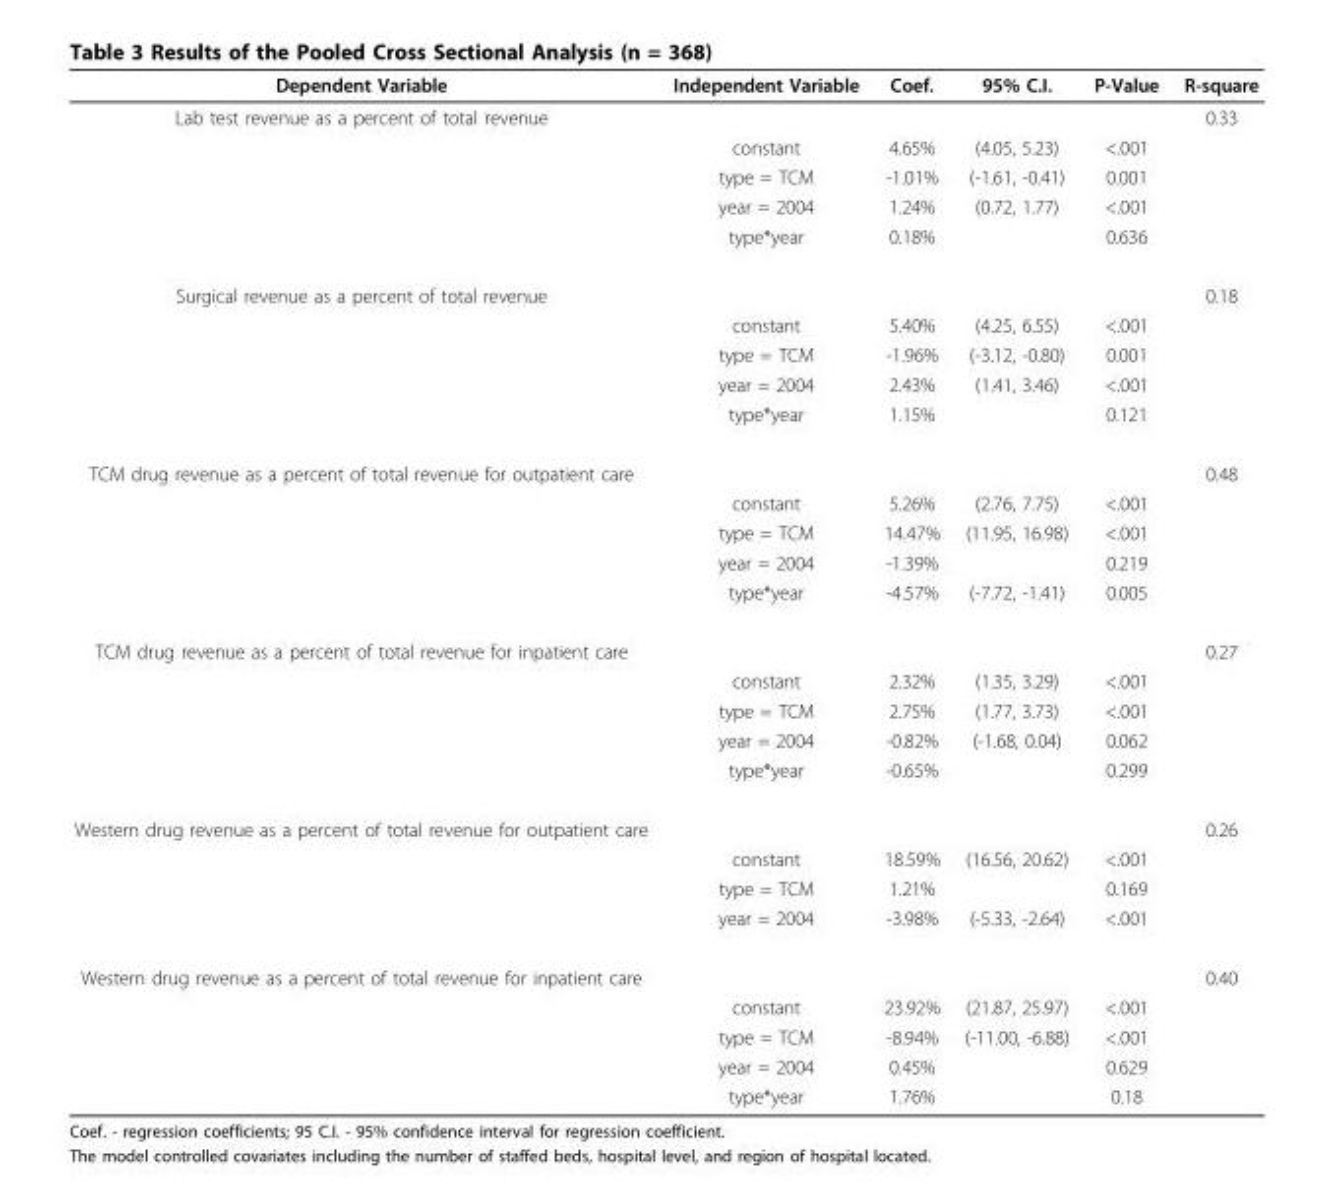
<table><thead><tr><td>Dependent Variable</td><td>Independent Variable</td><td>Coef.</td><td>95% C.I.</td><td>P-Value</td><td>R-square</td></tr></thead><tbody><tr><td rowspan="5">Lab test revenue as a percent of total revenue</td><td></td><td></td><td></td><td></td><td>0.33</td></tr><tr><td>constant</td><td>4.65%</td><td>(4.05, 5.23)</td><td>&lt;.001</td><td></td></tr><tr><td>type = TCM</td><td>-1.01%</td><td>(-1.61, -0.41)</td><td>0.001</td><td></td></tr><tr><td>year = 2004</td><td>1.24%</td><td>(0.72, 1.77)</td><td>&lt;.001</td><td></td></tr><tr><td>type*year</td><td>0.18%</td><td></td><td>0.636</td><td></td></tr><tr><td rowspan="5">Surgical revenue as a percent of total revenue</td><td></td><td></td><td></td><td></td><td>0.18</td></tr><tr><td>constant</td><td>5.40%</td><td>(4.25, 6.55)</td><td>&lt;.001</td><td></td></tr><tr><td>type = TCM</td><td>-1.96%</td><td>(-3.12, -0.80)</td><td>0.001</td><td></td></tr><tr><td>year = 2004</td><td>2.43%</td><td>(1.41, 3.46)</td><td>&lt;.001</td><td></td></tr><tr><td>type*year</td><td>1.15%</td><td></td><td>0.121</td><td></td></tr><tr><td rowspan="5">TCM drug revenue as a percent of total revenue for outpatient care</td><td></td><td></td><td></td><td></td><td>0.48</td></tr><tr><td>constant</td><td>5.26%</td><td>(2.76, 7.75)</td><td>&lt;.001</td><td></td></tr><tr><td>type = TCM</td><td>14.47%</td><td>(11.95, 16.98)</td><td>&lt;.001</td><td></td></tr><tr><td>year = 2004</td><td>-1.39%</td><td></td><td>0.219</td><td></td></tr><tr><td>type*year</td><td>-4.57%</td><td>(-7.72, -1.41)</td><td>0.005</td><td></td></tr><tr><td rowspan="5">TCM drug revenue as a percent of total revenue for inpatient care</td><td></td><td></td><td></td><td></td><td>0.27</td></tr><tr><td>constant</td><td>2.32%</td><td>(1.35, 3.29)</td><td>&lt;.001</td><td></td></tr><tr><td>type = TCM</td><td>2.75%</td><td>(1.77, 3.73)</td><td>&lt;.001</td><td></td></tr><tr><td>year = 2004</td><td>-0.82%</td><td>(-1.68, 0.04)</td><td>0.062</td><td></td></tr><tr><td>type*year</td><td>-0.65%</td><td></td><td>0.299</td><td></td></tr><tr><td rowspan="4">Western drug revenue as a percent of total revenue for outpatient care</td><td></td><td></td><td></td><td></td><td>0.26</td></tr><tr><td>constant</td><td>18.59%</td><td>(16.56, 20.62)</td><td>&lt;.001</td><td></td></tr><tr><td>type = TCM</td><td>1.21%</td><td></td><td>0.169</td><td></td></tr><tr><td>year = 2004</td><td>-3.98%</td><td>(-5.33, -2.64)</td><td>&lt;.001</td><td></td></tr><tr><td rowspan="5">Western drug revenue as a percent of total revenue for inpatient care</td><td></td><td></td><td></td><td></td><td>0.40</td></tr><tr><td>constant</td><td>23.92%</td><td>(21.87, 25.97)</td><td>&lt;.001</td><td></td></tr><tr><td>type = TCM</td><td>-8.94%</td><td>(-11.00, -6.88)</td><td>&lt;.001</td><td></td></tr><tr><td>year = 2004</td><td>0.45%</td><td></td><td>0.629</td><td></td></tr><tr><td>type*year</td><td>1.76%</td><td></td><td>0.18</td><td></td></tr></tbody></table>